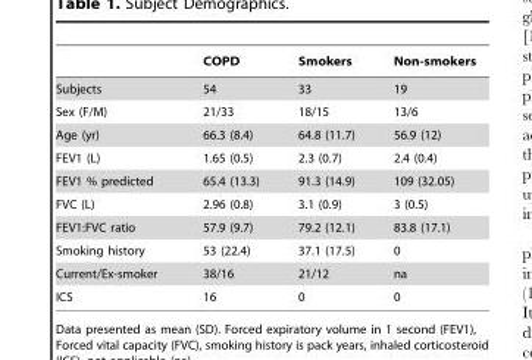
<table><thead><tr><td></td><td>COPD</td><td>Smokers</td><td>Non-smokers</td></tr></thead><tbody><tr><td>Subjects</td><td>54</td><td>33</td><td>19</td></tr><tr><td>Sex (F/M)</td><td>21/33</td><td>18/15</td><td>13/6</td></tr><tr><td>Age (yr)</td><td>66.3 (8.4)</td><td>64.8 (11.7)</td><td>56.9 (12)</td></tr><tr><td>FEV1 (L)</td><td>1.65 (0.5)</td><td>2.3 (0.7)</td><td>2.4 (0.4)</td></tr><tr><td>FEV1 % predicted</td><td>65.4 (13.3)</td><td>91.3 (14.9)</td><td>109 (32.05)</td></tr><tr><td>FVC (L)</td><td>2.96 (0.8)</td><td>3.1 (0.9)</td><td>3 (0.5)</td></tr><tr><td>FEV1:FVC ratio</td><td>57.9 (9.7)</td><td>79.2 (12.1)</td><td>83.8 (17.1)</td></tr><tr><td>Smoking history</td><td>53 (22.4)</td><td>37.1 (17.5)</td><td>0</td></tr><tr><td>Current/Ex-smoker</td><td>38/16</td><td>21/12</td><td>na</td></tr><tr><td>ICS</td><td>16</td><td>0</td><td>0</td></tr></tbody></table>